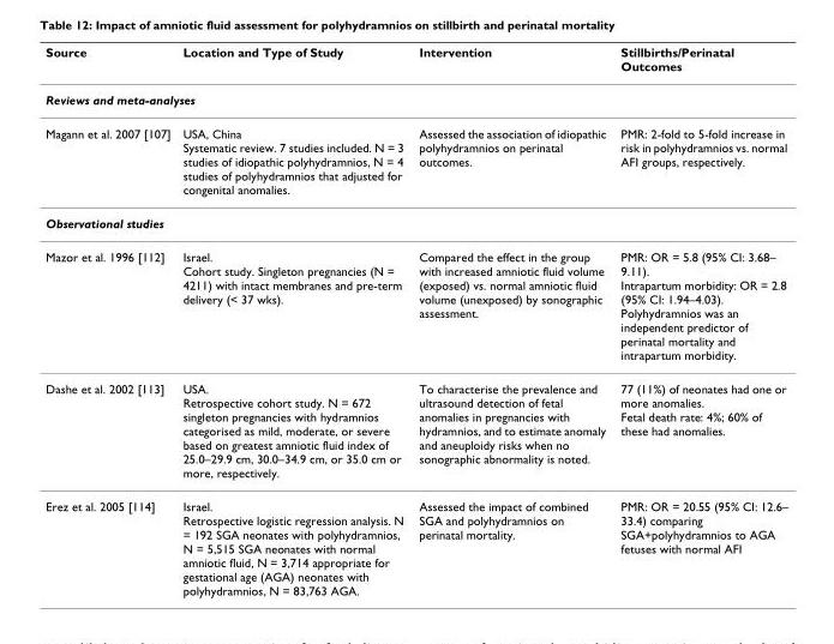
<table><thead><tr><td>Source</td><td>Location and Type of Study</td><td>Intervention</td><td>Stillbirths/Perinatal Outcomes</td></tr></thead><tbody><tr><td colspan="4">Reviews and meta-analyses</td></tr><tr><td>Magann et al. 2007 [107]</td><td>USA, China Systematic review. 7 studies included. N = 3 studies of idiopathic polyhydramnios, N = 4 studies of polyhydramnios that adjusted for congenital anomalies.</td><td>Assessed the association of idiopathic polyhydramnios on perinatal outcomes.</td><td>PMR: 2-fold to 5-fold increase in risk in polyhydramnios vs. normal AFI groups, respectively.</td></tr><tr><td colspan="4">Observational studies</td></tr><tr><td>Mazor et al. 1996 [112]</td><td>Israel. Cohort study. Singleton pregnancies (N = 4211) with intact membranes and pre-term delivery (&lt; 37 wks).</td><td>Compared the effect in the group with increased amniotic fluid volume (exposed) vs. normal amniotic fluid volume (unexposed) by sonographic assessment.</td><td>PMR: OR = 5.8 (95% CI: 3.68– 9.11). Intrapartum morbidity: OR = 2.8 (95% CI: 1.94–4.03). Polyhydramnios was an independent predictor of perinatal mortality and intrapartum morbidity.</td></tr><tr><td>Dashe et al. 2002 [113]</td><td>USA. Retrospective cohort study. N = 672 singleton pregnancies with hydramnios categorised as mild, moderate, or severe based on greatest amniotic fluid index of 25.0–29.9 cm, 30.0–34.9 cm, or 35.0 cm or more, respectively.</td><td>To characterise the prevalence and ultrasound detection of fetal anomalies in pregnancies with hydramnios, and to estimate anomaly and aneuploidy risks when no sonographic abnormality is noted.</td><td>77 (11%) of neonates had one or more anomalies. Fetal death rate: 4%; 60% of these had anomalies.</td></tr><tr><td>Erez et al. 2005 [114]</td><td>Israel. Retrospective logistic regression analysis. N = 192 SGA neonates with polyhydramnios, N = 5,515 SGA neonates with normal amniotic fluid, N = 3,714 appropriate for gestational age (AGA) neonates with polyhydramnios, N = 83,763 AGA.</td><td>Assessed the impact of combined SGA and polyhydramnios on perinatal mortality.</td><td>PMR: OR = 20.55 (95% CI: 12.6– 33.4) comparing SGA+polyhydramnios to AGA fetuses with normal AFI</td></tr></tbody></table>